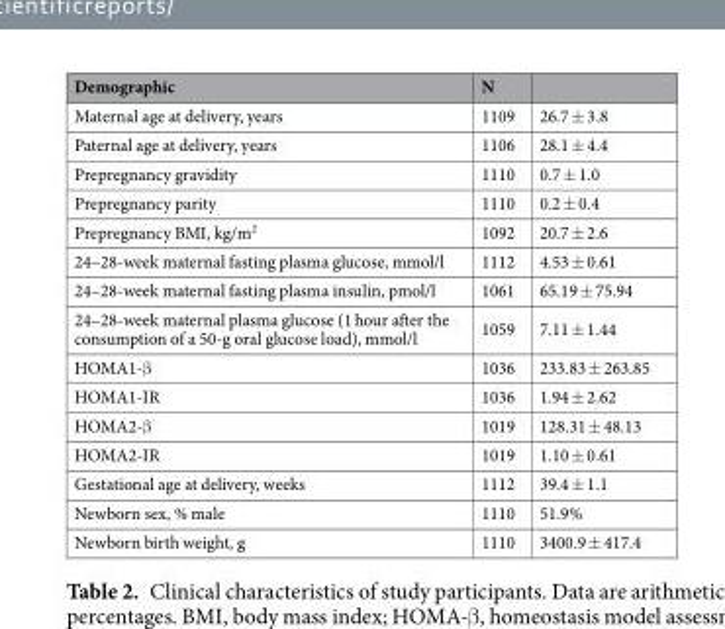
<table><thead><tr><td>Demographic</td><td>N</td><td></td></tr></thead><tbody><tr><td>Maternal age at delivery, years</td><td>1109</td><td>26.7 ± 3.8</td></tr><tr><td>Paternal age at delivery, years</td><td>1106</td><td>28.1 ± 4.4</td></tr><tr><td>Prepregnancy gravidity</td><td>1110</td><td>0.7 ± 1.0</td></tr><tr><td>Prepregnancy parity</td><td>1110</td><td>0.2 ± 0.4</td></tr><tr><td>Prepregnancy BMI, kg/m<sup>2</sup></td><td>1092</td><td>20.7 ± 2.6</td></tr><tr><td>24–28-week maternal fasting plasma glucose, mmol/l</td><td>1112</td><td>4.53 ± 0.61</td></tr><tr><td>24–28-week maternal fasting plasma insulin, pmol/l</td><td>1061</td><td>65.19 ± 75.94</td></tr><tr><td>24–28-week maternal plasma glucose (1 hour after the consumption of a 50-g oral glucose load), mmol/l</td><td>1059</td><td>7.11 ± 1.44</td></tr><tr><td>HOMA1-β</td><td>1036</td><td>233.83 ± 263.85</td></tr><tr><td>HOMA1-IR</td><td>1036</td><td>1.94 ± 2.62</td></tr><tr><td>HOMA2-β</td><td>1019</td><td>128.31 ± 48.13</td></tr><tr><td>HOMA2-IR</td><td>1019</td><td>1.10 ± 0.61</td></tr><tr><td>Gestational age at delivery, weeks</td><td>1112</td><td>39.4 ± 1.1</td></tr><tr><td>Newborn sex, % male</td><td>1110</td><td>51.9%</td></tr><tr><td>Newborn birth weight, g</td><td>1110</td><td>3400.9 ± 417.4</td></tr></tbody></table>